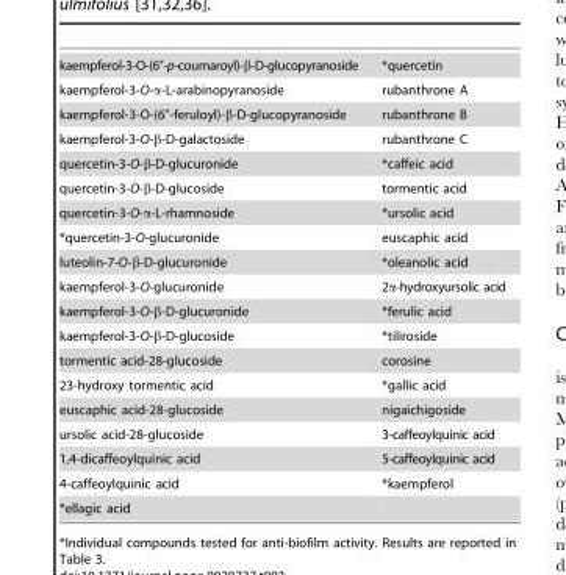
<table><tbody><tr><td>kaempferol-3-O-(6″-p-coumaroyl)-β-D-glucopyranoside</td><td>*quercetin</td></tr><tr><td>kaempferol-3-O-α-L-arabinopyranoside</td><td>rubanthrone A</td></tr><tr><td>kaempferol-3-O-(6″-feruloyl)-β-D-glucopyranoside</td><td>rubanthrone B</td></tr><tr><td>kaempferol-3-O-β-D-galactoside</td><td>rubanthrone C</td></tr><tr><td>quercetin-3-O-β-D-glucuronide</td><td>*caffeic acid</td></tr><tr><td>quercetin-3-O-β-D-glucoside</td><td>tormentic acid</td></tr><tr><td>quercetin-3-O-α-L-rhamnoside</td><td>*ursolic acid</td></tr><tr><td>*quercetin-3-O-glucuronide</td><td>euscaphic acid</td></tr><tr><td>luteolin-7-O-β-D-glucuronide</td><td>*oleanolic acid</td></tr><tr><td>kaempferol-3-O-glucuronide</td><td>2α-hydroxyursolic acid</td></tr><tr><td>kaempferol-3-O-β-D-glucuronide</td><td>*ferulic acid</td></tr><tr><td>kaempferol-3-O-β-D-glucoside</td><td>*tiliroside</td></tr><tr><td>tormentic acid-28-glucoside</td><td>corosine</td></tr><tr><td>23-hydroxy tormentic acid</td><td>*gallic acid</td></tr><tr><td>euscaphic acid-28-glucoside</td><td>nigaichigoside</td></tr><tr><td>ursolic acid-28-glucoside</td><td>3-caffeoylquinic acid</td></tr><tr><td>1,4-dicaffeoylquinic acid</td><td>5-caffeoylquinic acid</td></tr><tr><td>4-caffeoylquinic acid</td><td>*kaempferol</td></tr><tr><td>*ellagic acid</td><td></td></tr></tbody></table>